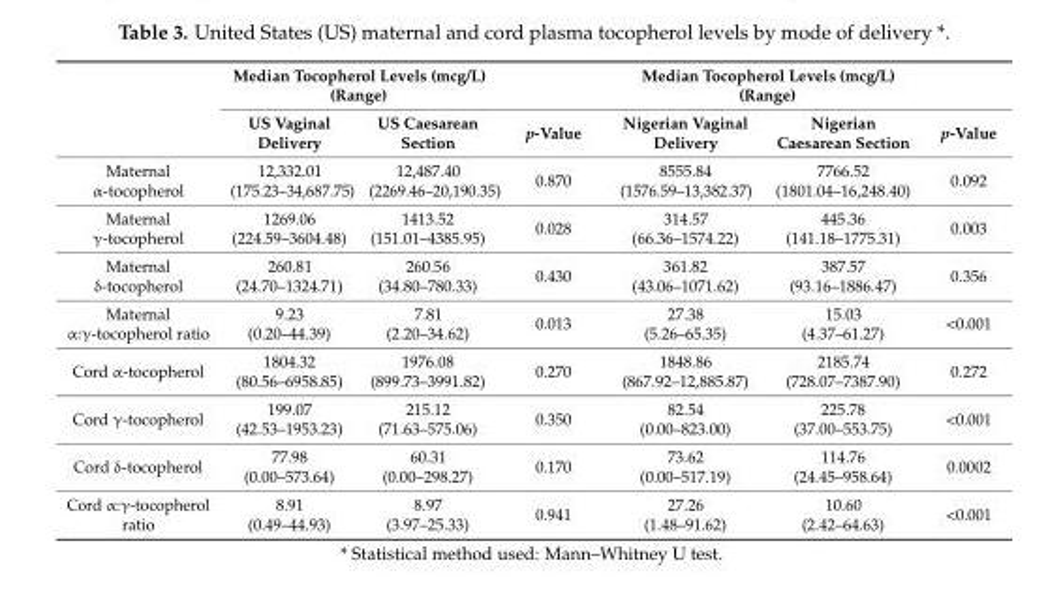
<table><thead><tr><td rowspan="2"></td><td colspan="2">Median Tocopherol Levels (mcg/L) (Range)</td><td rowspan="2">p-Value</td><td colspan="2">Median Tocopherol Levels (mcg/L) (Range)</td><td rowspan="2">p-Value</td></tr><tr><td>US Vaginal Delivery</td><td>US Caesarean Section</td><td>Nigerian Vaginal Delivery</td><td>Nigerian Caesarean Section</td></tr></thead><tbody><tr><td>Maternal α-tocopherol</td><td>12,332.01 (175.23–34,687.75)</td><td>12,487.40 (2269.46–20,190.35)</td><td>0.870</td><td>8555.84 (1576.59–13,382.37)</td><td>7766.52 (1801.04–16,248.40)</td><td>0.092</td></tr><tr><td>Maternal γ-tocopherol</td><td>1269.06 (224.59–3604.48)</td><td>1413.52 (151.01–4385.95)</td><td>0.028</td><td>314.57 (66.36–1574.22)</td><td>445.36 (141.18–1775.31)</td><td>0.003</td></tr><tr><td>Maternal δ-tocopherol</td><td>260.81 (24.70–1324.71)</td><td>260.56 (34.80–780.33)</td><td>0.430</td><td>361.82 (43.06–1071.62)</td><td>387.57 (93.16–1886.47)</td><td>0.356</td></tr><tr><td>Maternal α:γ-tocopherol ratio</td><td>9.23 (0.20–44.39)</td><td>7.81 (2.20–34.62)</td><td>0.013</td><td>27.38 (5.26–65.35)</td><td>15.03 (4.37–61.27)</td><td>&lt;0.001</td></tr><tr><td>Cord α-tocopherol</td><td>1804.32 (80.56–6958.85)</td><td>1976.08 (899.73–3991.82)</td><td>0.270</td><td>1848.86 (867.92–12,885.87)</td><td>2185.74 (728.07–7387.90)</td><td>0.272</td></tr><tr><td>Cord γ-tocopherol</td><td>199.07 (42.53–1953.23)</td><td>215.12 (71.63–575.06)</td><td>0.350</td><td>82.54 (0.00–823.00)</td><td>225.78 (37.00–553.75)</td><td>&lt;0.001</td></tr><tr><td>Cord δ-tocopherol</td><td>77.98 (0.00–573.64)</td><td>60.31 (0.00–298.27)</td><td>0.170</td><td>73.62 (0.00–517.19)</td><td>114.76 (24.45–958.64)</td><td>0.0002</td></tr><tr><td>Cord α:γ-tocopherol ratio</td><td>8.91 (0.49–44.93)</td><td>8.97 (3.97–25.33)</td><td>0.941</td><td>27.26 (1.48–91.62)</td><td>10.60 (2.42–64.63)</td><td>&lt;0.001</td></tr></tbody></table>